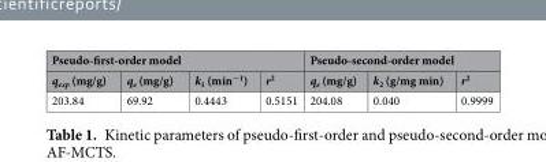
<table><thead><tr><td colspan="4">Pseudo-first-order model</td><td colspan="3">Pseudo-second-order model</td></tr><tr><td>q<sub>exp</sub> (mg/g)</td><td>q<sub>e</sub> (mg/g)</td><td>k<sub>1</sub> (min<sup>−1</sup>)</td><td>r<sup>2</sup></td><td>q<sub>e</sub> (mg/g)</td><td>k<sub>2</sub> (g/mg min)</td><td>r<sup>2</sup></td></tr></thead><tbody><tr><td>203.84</td><td>69.92</td><td>0.4443</td><td>0.5151</td><td>204.08</td><td>0.040</td><td>0.9999</td></tr></tbody></table>